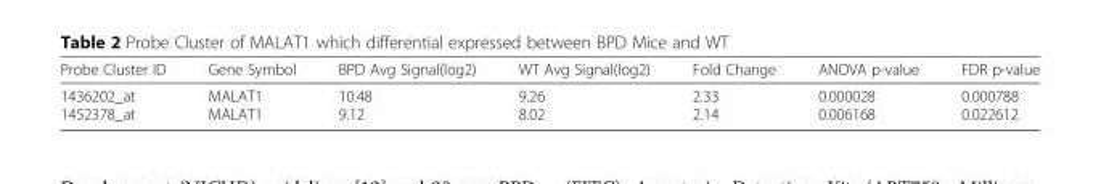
<table><thead><tr><td>Probe Cluster ID</td><td>Gene Symbol</td><td>BPD Avg Signal(log2)</td><td>WT Avg Signal(log2)</td><td>Fold Change</td><td>ANOVA p-value</td><td>FDR p-value</td></tr></thead><tbody><tr><td>1436202_at 1452378_at</td><td>MALAT1 MALAT1</td><td>10.48 9.12</td><td>9.26 8.02</td><td>2.33 2.14</td><td>0.000028 0.006168</td><td>0.000788 0.022612</td></tr></tbody></table>